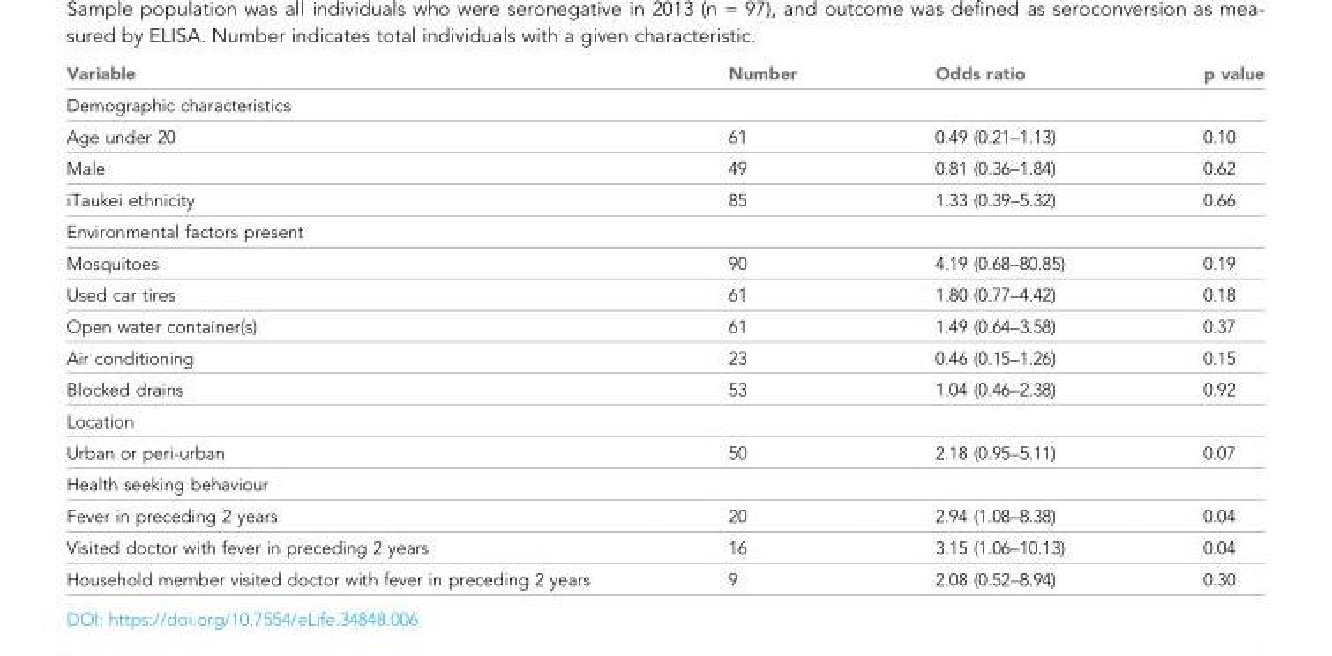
<table><thead><tr><td>Variable</td><td>Number</td><td>Odds ratio</td><td>p value</td></tr></thead><tbody><tr><td colspan="4">Demographic characteristics</td></tr><tr><td>Age under 20</td><td>61</td><td>0.49 (0.21–1.13)</td><td>0.10</td></tr><tr><td>Male</td><td>49</td><td>0.81 (0.36–1.84)</td><td>0.62</td></tr><tr><td>iTaukei ethnicity</td><td>85</td><td>1.33 (0.39–5.32)</td><td>0.66</td></tr><tr><td colspan="4">Environmental factors present</td></tr><tr><td>Mosquitoes</td><td>90</td><td>4.19 (0.68–80.85)</td><td>0.19</td></tr><tr><td>Used car tires</td><td>61</td><td>1.80 (0.77–4.42)</td><td>0.18</td></tr><tr><td>Open water container(s)</td><td>61</td><td>1.49 (0.64–3.58)</td><td>0.37</td></tr><tr><td>Air conditioning</td><td>23</td><td>0.46 (0.15–1.26)</td><td>0.15</td></tr><tr><td>Blocked drains</td><td>53</td><td>1.04 (0.46–2.38)</td><td>0.92</td></tr><tr><td colspan="4">Location</td></tr><tr><td>Urban or peri-urban</td><td>50</td><td>2.18 (0.95–5.11)</td><td>0.07</td></tr><tr><td colspan="4">Health seeking behaviour</td></tr><tr><td>Fever in preceding 2 years</td><td>20</td><td>2.94 (1.08–8.38)</td><td>0.04</td></tr><tr><td>Visited doctor with fever in preceding 2 years</td><td>16</td><td>3.15 (1.06–10.13)</td><td>0.04</td></tr><tr><td>Household member visited doctor with fever in preceding 2 years</td><td>9</td><td>2.08 (0.52–8.94)</td><td>0.30</td></tr></tbody></table>